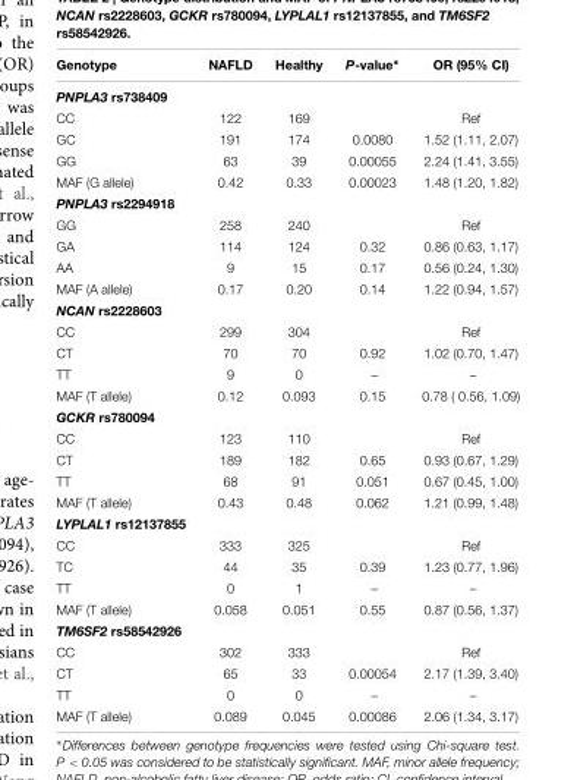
<table><thead><tr><td>Genotype</td><td>NAFLD</td><td>Healthy</td><td>P-value∗</td><td>OR (95% CI)</td></tr></thead><tbody><tr><td colspan="5">PNPLA3 rs738409</td></tr><tr><td>CC</td><td>122</td><td>169</td><td></td><td>Ref</td></tr><tr><td>GC</td><td>191</td><td>174</td><td>0.0080</td><td>1.52 (1.11, 2.07)</td></tr><tr><td>GG</td><td>63</td><td>39</td><td>0.00055</td><td>2.24 (1.41, 3.55)</td></tr><tr><td>MAF (G allele)</td><td>0.42</td><td>0.33</td><td>0.00023</td><td>1.48 (1.20, 1.82)</td></tr><tr><td colspan="5">PNPLA3 rs2294918</td></tr><tr><td>GG</td><td>258</td><td>240</td><td></td><td>Ref</td></tr><tr><td>GA</td><td>114</td><td>124</td><td>0.32</td><td>0.86 (0.63, 1.17)</td></tr><tr><td>AA</td><td>9</td><td>15</td><td>0.17</td><td>0.56 (0.24, 1.30)</td></tr><tr><td>MAF (A allele)</td><td>0.17</td><td>0.20</td><td>0.14</td><td>1.22 (0.94, 1.57)</td></tr><tr><td colspan="5">NCAN rs2228603</td></tr><tr><td>CC</td><td>299</td><td>304</td><td></td><td>Ref</td></tr><tr><td>CT</td><td>70</td><td>70</td><td>0.92</td><td>1.02 (0.70, 1.47)</td></tr><tr><td>TT</td><td>9</td><td>0</td><td>–</td><td>–</td></tr><tr><td>MAF (T allele)</td><td>0.12</td><td>0.093</td><td>0.15</td><td>0.78 ( 0.56, 1.09)</td></tr><tr><td colspan="5">GCKR rs780094</td></tr><tr><td>CC</td><td>123</td><td>110</td><td></td><td>Ref</td></tr><tr><td>CT</td><td>189</td><td>182</td><td>0.65</td><td>0.93 (0.67, 1.29)</td></tr><tr><td>TT</td><td>68</td><td>91</td><td>0.051</td><td>0.67 (0.45, 1.00)</td></tr><tr><td>MAF (T allele)</td><td>0.43</td><td>0.48</td><td>0.062</td><td>1.21 (0.99, 1.48)</td></tr><tr><td colspan="5">LYPLAL1 rs12137855</td></tr><tr><td>CC</td><td>333</td><td>325</td><td></td><td>Ref</td></tr><tr><td>TC</td><td>44</td><td>35</td><td>0.39</td><td>1.23 (0.77, 1.96)</td></tr><tr><td>TT</td><td>0</td><td>1</td><td>–</td><td>–</td></tr><tr><td>MAF (T allele)</td><td>0.058</td><td>0.051</td><td>0.55</td><td>0.87 (0.56, 1.37)</td></tr><tr><td colspan="5">TM6SF2 rs58542926</td></tr><tr><td>CC</td><td>302</td><td>333</td><td></td><td>Ref</td></tr><tr><td>CT</td><td>65</td><td>33</td><td>0.00054</td><td>2.17 (1.39, 3.40)</td></tr><tr><td>TT</td><td>0</td><td>0</td><td>–</td><td>–</td></tr><tr><td>MAF (T allele)</td><td>0.089</td><td>0.045</td><td>0.00086</td><td>2.06 (1.34, 3.17)</td></tr></tbody></table>